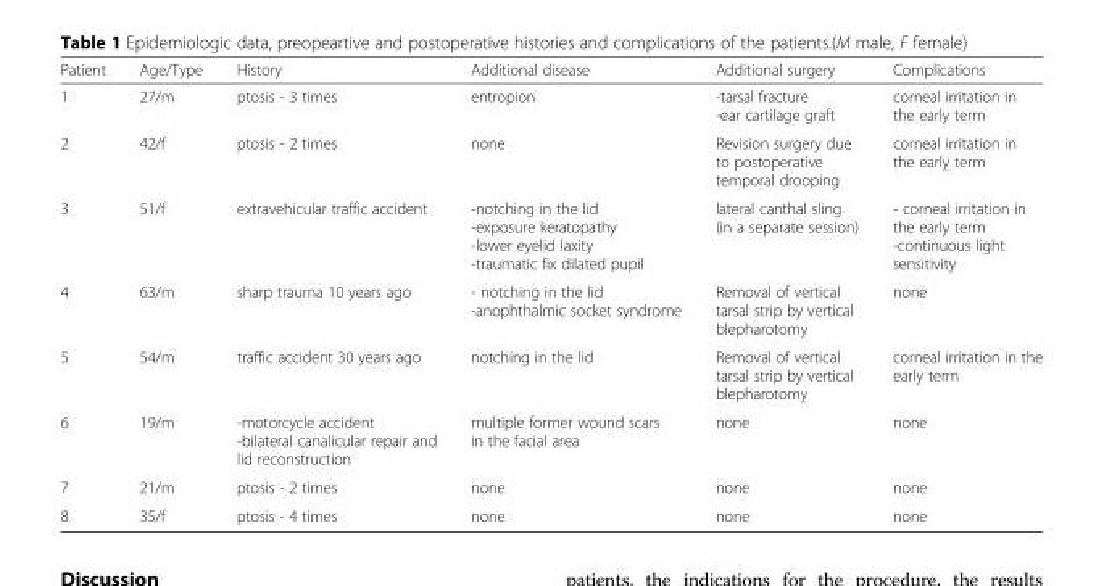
<table><thead><tr><td>Patient</td><td>Age/Type</td><td>History</td><td>Additional disease</td><td>Additional surgery</td><td>Complications</td></tr></thead><tbody><tr><td>1</td><td>27/m</td><td>ptosis - 3 times</td><td>entropion</td><td>-tarsal fracture -ear cartilage graft</td><td>corneal irritation in the early term</td></tr><tr><td>2</td><td>42/f</td><td>ptosis - 2 times</td><td>none</td><td>Revision surgery due to postoperative temporal drooping</td><td>corneal irritation in the early term</td></tr><tr><td>3</td><td>51/f</td><td>extravehicular traffic accident</td><td>-notching in the lid -exposure keratopathy -lower eyelid laxity -traumatic fix dilated pupil</td><td>lateral canthal sling (in a separate session)</td><td>- corneal irritation in the early term -continuous light sensitivity</td></tr><tr><td>4</td><td>63/m</td><td>sharp trauma 10 years ago</td><td>- notching in the lid -anophthalmic socket syndrome</td><td>Removal of vertical tarsal strip by vertical blepharotomy</td><td>none</td></tr><tr><td>5</td><td>54/m</td><td>traffic accident 30 years ago</td><td>notching in the lid</td><td>Removal of vertical tarsal strip by vertical blepharotomy</td><td>corneal irritation in the early term</td></tr><tr><td>6</td><td>19/m</td><td>-motorcycle accident -bilateral canalicular repair and lid reconstruction</td><td>multiple former wound scars in the facial area</td><td>none</td><td>none</td></tr><tr><td>7</td><td>21/m</td><td>ptosis - 2 times</td><td>none</td><td>none</td><td>none</td></tr><tr><td>8</td><td>35/f</td><td>ptosis - 4 times</td><td>none</td><td>none</td><td>none</td></tr></tbody></table>